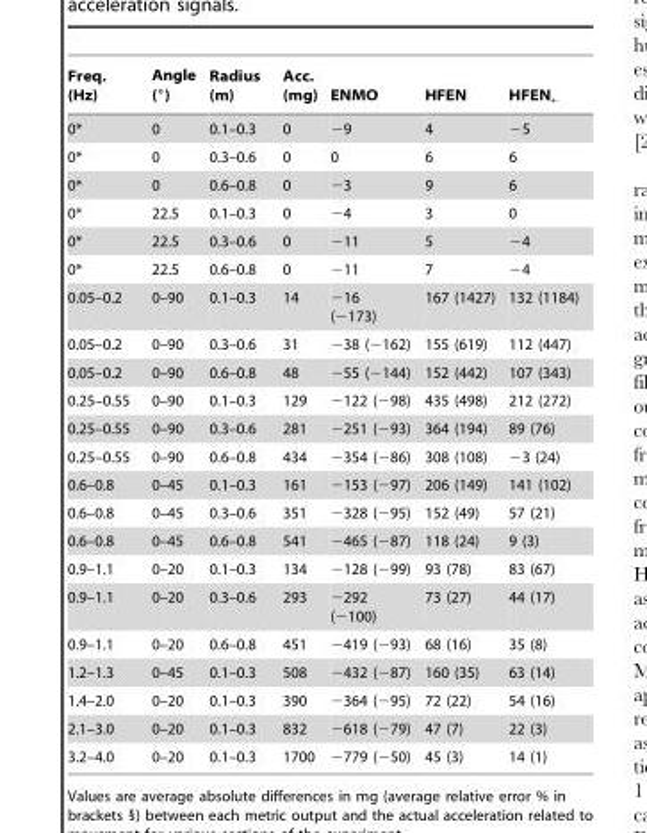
<table><thead><tr><td>Freq. (Hz)</td><td>Angle (°)</td><td>Radius (m)</td><td>Acc. (mg)</td><td>ENMO</td><td>HFEN</td><td>HFEN<sub>+</sub></td></tr></thead><tbody><tr><td>0*</td><td>0</td><td>0.1–0.3</td><td>0</td><td>−9</td><td>4</td><td>−5</td></tr><tr><td>0*</td><td>0</td><td>0.3–0.6</td><td>0</td><td>0</td><td>6</td><td>6</td></tr><tr><td>0*</td><td>0</td><td>0.6–0.8</td><td>0</td><td>−3</td><td>9</td><td>6</td></tr><tr><td>0*</td><td>22.5</td><td>0.1–0.3</td><td>0</td><td>−4</td><td>3</td><td>0</td></tr><tr><td>0*</td><td>22.5</td><td>0.3–0.6</td><td>0</td><td>−11</td><td>5</td><td>−4</td></tr><tr><td>0*</td><td>22.5</td><td>0.6–0.8</td><td>0</td><td>−11</td><td>7</td><td>−4</td></tr><tr><td>0.05–0.2</td><td>0–90</td><td>0.1–0.3</td><td>14</td><td>−16 (−173)</td><td>167 (1427)</td><td>132 (1184)</td></tr><tr><td>0.05–0.2</td><td>0–90</td><td>0.3–0.6</td><td>31</td><td>−38 (−162)</td><td>155 (619)</td><td>112 (447)</td></tr><tr><td>0.05–0.2</td><td>0–90</td><td>0.6–0.8</td><td>48</td><td>−55 (−144)</td><td>152 (442)</td><td>107 (343)</td></tr><tr><td>0.25–0.55</td><td>0–90</td><td>0.1–0.3</td><td>129</td><td>−122 (−98)</td><td>435 (498)</td><td>212 (272)</td></tr><tr><td>0.25–0.55</td><td>0–90</td><td>0.3–0.6</td><td>281</td><td>−251 (−93)</td><td>364 (194)</td><td>89 (76)</td></tr><tr><td>0.25–0.55</td><td>0–90</td><td>0.6–0.8</td><td>434</td><td>−354 (−86)</td><td>308 (108)</td><td>−3 (24)</td></tr><tr><td>0.6–0.8</td><td>0–45</td><td>0.1–0.3</td><td>161</td><td>−153 (−97)</td><td>206 (149)</td><td>141 (102)</td></tr><tr><td>0.6–0.8</td><td>0–45</td><td>0.3–0.6</td><td>351</td><td>−328 (−95)</td><td>152 (49)</td><td>57 (21)</td></tr><tr><td>0.6–0.8</td><td>0–45</td><td>0.6–0.8</td><td>541</td><td>−465 (−87)</td><td>118 (24)</td><td>9 (3)</td></tr><tr><td>0.9–1.1</td><td>0–20</td><td>0.1–0.3</td><td>134</td><td>−128 (−99)</td><td>93 (78)</td><td>83 (67)</td></tr><tr><td>0.9–1.1</td><td>0–20</td><td>0.3–0.6</td><td>293</td><td>−292 (−100)</td><td>73 (27)</td><td>44 (17)</td></tr><tr><td>0.9–1.1</td><td>0–20</td><td>0.6–0.8</td><td>451</td><td>−419 (−93)</td><td>68 (16)</td><td>35 (8)</td></tr><tr><td>1.2–1.3</td><td>0–45</td><td>0.1–0.3</td><td>508</td><td>−432 (−87)</td><td>160 (35)</td><td>63 (14)</td></tr><tr><td>1.4–2.0</td><td>0–20</td><td>0.1–0.3</td><td>390</td><td>−364 (−95)</td><td>72 (22)</td><td>54 (16)</td></tr><tr><td>2.1–3.0</td><td>0–20</td><td>0.1–0.3</td><td>832</td><td>−618 (−79)</td><td>47 (7)</td><td>22 (3)</td></tr><tr><td>3.2–4.0</td><td>0–20</td><td>0.1–0.3</td><td>1700</td><td>−779 (−50)</td><td>45 (3)</td><td>14 (1)</td></tr></tbody></table>